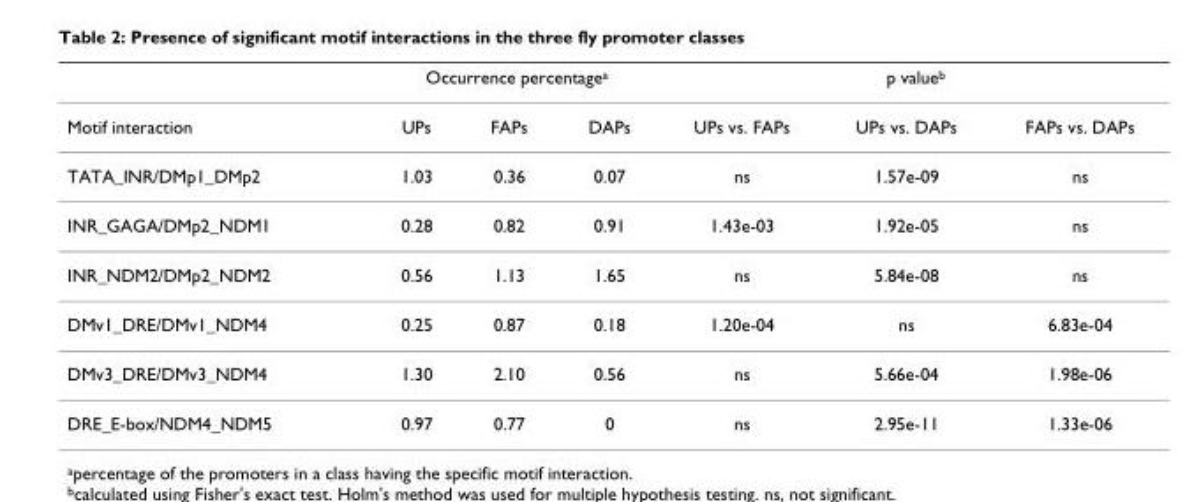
<table><thead><tr><td rowspan="2">Motif interaction</td><td colspan="3">Occurrence percentage<sup>a</sup></td><td colspan="3">p value<sup>b</sup></td></tr><tr><td>UPs</td><td>FAPs</td><td>DAPs</td><td>UPs vs. FAPs</td><td>UPs vs. DAPs</td><td>FAPs vs. DAPs</td></tr></thead><tbody><tr><td>TATA_INR/DMp1_DMp2</td><td>1.03</td><td>0.36</td><td>0.07</td><td>ns</td><td>1.57e-09</td><td>ns</td></tr><tr><td>INR_GAGA/DMp2_NDM1</td><td>0.28</td><td>0.82</td><td>0.91</td><td>1.43e-03</td><td>1.92e-05</td><td>ns</td></tr><tr><td>INR_NDM2/DMp2_NDM2</td><td>0.56</td><td>1.13</td><td>1.65</td><td>ns</td><td>5.84e-08</td><td>ns</td></tr><tr><td>DMv1_DRE/DMv1_NDM4</td><td>0.25</td><td>0.87</td><td>0.18</td><td>1.20e-04</td><td>ns</td><td>6.83e-04</td></tr><tr><td>DMv3_DRE/DMv3_NDM4</td><td>1.30</td><td>2.10</td><td>0.56</td><td>ns</td><td>5.66e-04</td><td>1.98e-06</td></tr><tr><td>DRE_E-box/NDM4_NDM5</td><td>0.97</td><td>0.77</td><td>0</td><td>ns</td><td>2.95e-11</td><td>1.33e-06</td></tr></tbody></table>